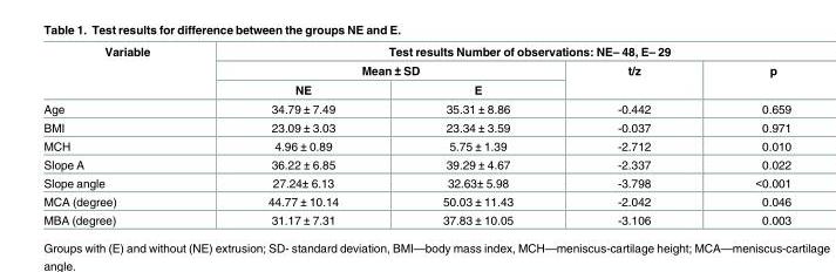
<table><thead><tr><td rowspan="3">Variable</td><td colspan="4">Test results Number of observations: NE– 48, E– 29</td></tr><tr><td colspan="2">Mean ± SD</td><td rowspan="2">t/z</td><td rowspan="2">p</td></tr><tr><td>NE</td><td>E</td></tr></thead><tbody><tr><td>Age</td><td>34.79 ± 7.49</td><td>35.31 ± 8.86</td><td>-0.442</td><td>0.659</td></tr><tr><td>BMI</td><td>23.09 ± 3.03</td><td>23.34 ± 3.59</td><td>-0.037</td><td>0.971</td></tr><tr><td>MCH</td><td>4.96 ± 0.89</td><td>5.75 ± 1.39</td><td>-2.712</td><td>0.010</td></tr><tr><td>Slope A</td><td>36.22 ± 6.85</td><td>39.29 ± 4.67</td><td>-2.337</td><td>0.022</td></tr><tr><td>Slope angle</td><td>27.24± 6.13</td><td>32.63± 5.98</td><td>-3.798</td><td>&lt;0.001</td></tr><tr><td>MCA (degree)</td><td>44.77 ± 10.14</td><td>50.03 ± 11.43</td><td>-2.042</td><td>0.046</td></tr><tr><td>MBA (degree)</td><td>31.17 ± 7.31</td><td>37.83 ± 10.05</td><td>-3.106</td><td>0.003</td></tr></tbody></table>